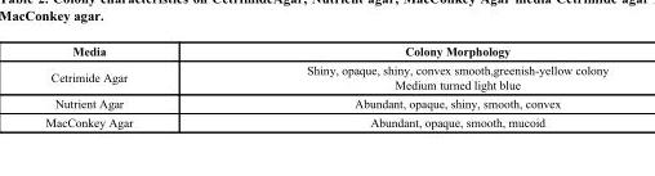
<table><thead><tr><td>Media</td><td>Colony Morphology</td></tr></thead><tbody><tr><td>Cetrimide Agar</td><td>Shiny, opaque, shiny, convex smooth,greenish-yellow colony Medium turned light blue</td></tr><tr><td>Nutrient Agar</td><td>Abundant, opaque, shiny, smooth, convex</td></tr><tr><td>MacConkey Agar</td><td>Abundant, opaque, smooth, mucoid</td></tr></tbody></table>